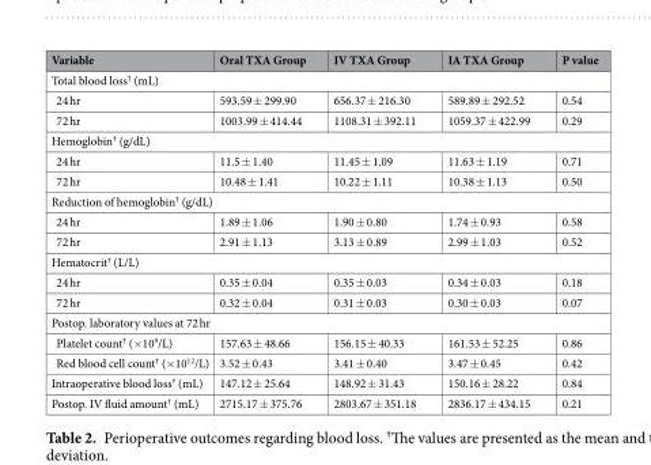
<table><thead><tr><td>Variable</td><td>Oral TXA Group</td><td>IV TXA Group</td><td>IA TXA Group</td><td>P value</td></tr></thead><tbody><tr><td colspan="5">Total blood loss<sup>†</sup> (mL)</td></tr><tr><td>24 hr</td><td>593.59 ± 299.90</td><td>656.37 ± 216.30</td><td>589.89 ± 292.52</td><td>0.54</td></tr><tr><td>72 hr</td><td>1003.99 ± 414.44</td><td>1108.31 ± 392.11</td><td>1059.37 ± 422.99</td><td>0.29</td></tr><tr><td colspan="5">Hemoglobin<sup>†</sup> (g/dL)</td></tr><tr><td>24 hr</td><td>11.5 ± 1.40</td><td>11.45 ± 1.09</td><td>11.63 ± 1.19</td><td>0.71</td></tr><tr><td>72 hr</td><td>10.48 ± 1.41</td><td>10.22 ± 1.11</td><td>10.38 ± 1.13</td><td>0.50</td></tr><tr><td colspan="5">Reduction of hemoglobin<sup>†</sup> (g/dL)</td></tr><tr><td>24 hr</td><td>1.89 ± 1.06</td><td>1.90 ± 0.80</td><td>1.74 ± 0.93</td><td>0.58</td></tr><tr><td>72 hr</td><td>2.91 ± 1.13</td><td>3.13 ± 0.89</td><td>2.99 ± 1.03</td><td>0.52</td></tr><tr><td colspan="5">Hematocrit<sup>†</sup> (L/L)</td></tr><tr><td>24 hr</td><td>0.35 ± 0.04</td><td>0.35 ± 0.03</td><td>0.34 ± 0.03</td><td>0.18</td></tr><tr><td>72 hr</td><td>0.32 ± 0.04</td><td>0.31 ± 0.03</td><td>0.30 ± 0.03</td><td>0.07</td></tr><tr><td colspan="5">Postop. laboratory values at 72 hr</td></tr><tr><td>Platelet count<sup>†</sup> (×10<sup>9</sup>/L)</td><td>157.63 ± 48.66</td><td>156.15 ± 40.33</td><td>161.53 ± 52.25</td><td>0.86</td></tr><tr><td>Red blood cell count<sup>†</sup> (×10<sup>12</sup>/L)</td><td>3.52 ± 0.43</td><td>3.41 ± 0.40</td><td>3.47 ± 0.45</td><td>0.42</td></tr><tr><td>Intraoperative blood loss<sup>†</sup> (mL)</td><td>147.12 ± 25.64</td><td>148.92 ± 31.43</td><td>150.16 ± 28.22</td><td>0.84</td></tr><tr><td>Postop. IV fluid amount<sup>†</sup> (mL)</td><td>2715.17 ± 375.76</td><td>2803.67 ± 351.18</td><td>2836.17 ± 434.15</td><td>0.21</td></tr></tbody></table>